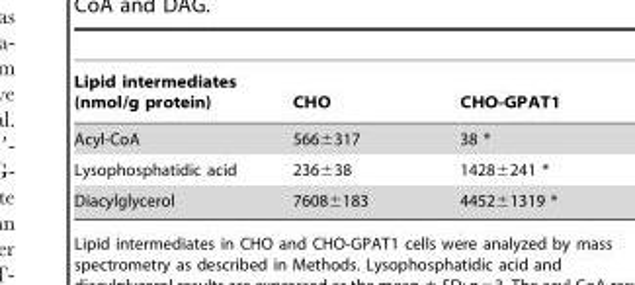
<table><thead><tr><td>Lipid intermediates (nmol/g protein)</td><td>CHO</td><td>CHO-GPAT1</td></tr></thead><tbody><tr><td>Acyl-CoA</td><td>566±317</td><td>38 *</td></tr><tr><td>Lysophosphatidic acid</td><td>236±38</td><td>1428±241 *</td></tr><tr><td>Diacylglycerol</td><td>7608±183</td><td>4452±1319 *</td></tr></tbody></table>